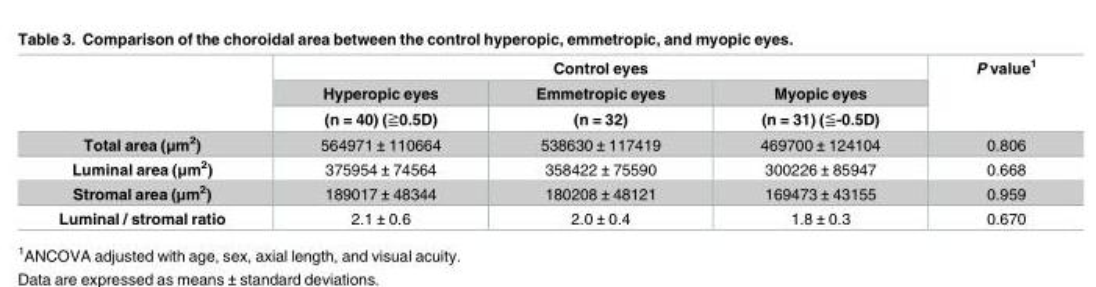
<table><thead><tr><td rowspan="3"></td><td colspan="3">Control eyes</td><td rowspan="3">P value<sup>1</sup></td></tr><tr><td rowspan="2">Hyperopic eyes (n = 40) (≧0.5D)</td><td rowspan="2">Emmetropic eyes (n = 32)</td><td rowspan="2">Myopic eyes (n = 31) (≦-0.5D)</td></tr><tr></tr></thead><tbody><tr><td>Total area (μm<sup>2</sup>)</td><td>564971 ± 110664</td><td>538630 ± 117419</td><td>469700 ± 124104</td><td>0.806</td></tr><tr><td>Luminal area (μm<sup>2</sup>)</td><td>375954 ± 74564</td><td>358422 ± 75590</td><td>300226 ± 85947</td><td>0.668</td></tr><tr><td>Stromal area (μm<sup>2</sup>)</td><td>189017 ± 48344</td><td>180208 ± 48121</td><td>169473 ± 43155</td><td>0.959</td></tr><tr><td>Luminal / stromal ratio</td><td>2.1 ± 0.6</td><td>2.0 ± 0.4</td><td>1.8 ± 0.3</td><td>0.670</td></tr></tbody></table>